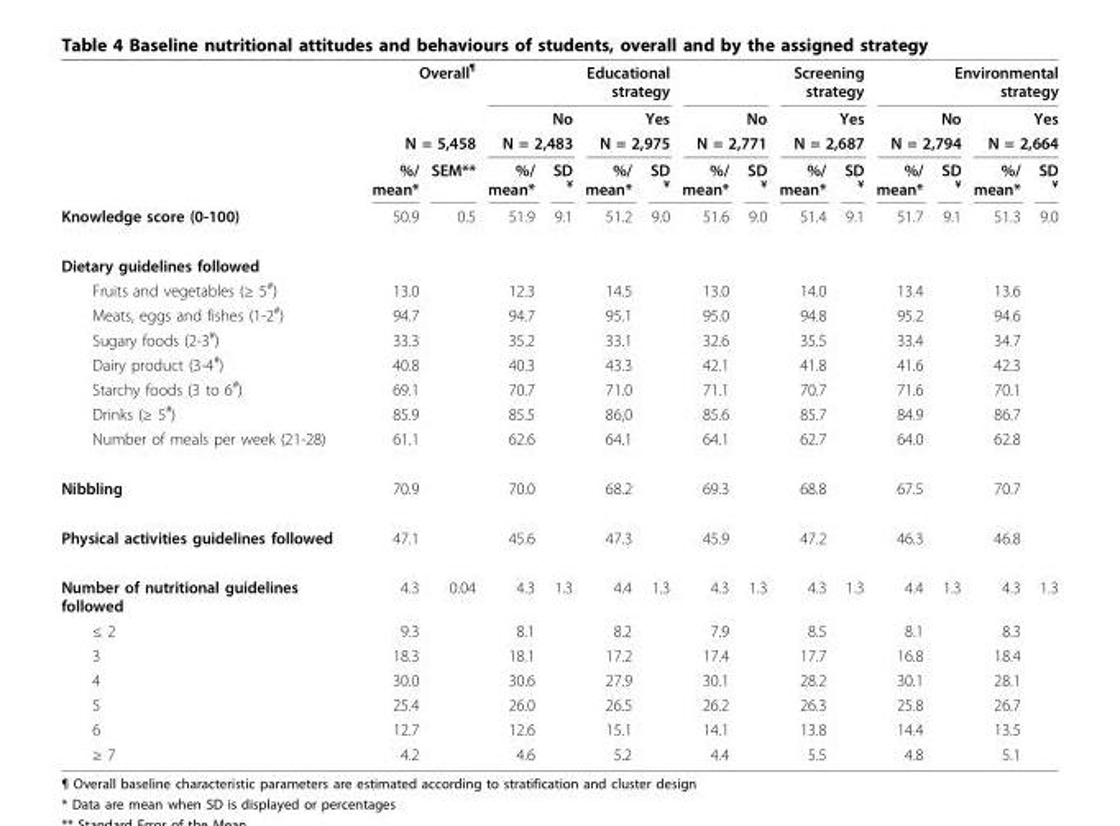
<table><thead><tr><td rowspan="4"></td><td colspan="2">Overall<sup>¶</sup></td><td colspan="4">Educational strategy</td><td colspan="4">Screening strategy</td><td colspan="4">Environmental strategy</td></tr><tr><td></td><td></td><td rowspan="2" colspan="2">No N = 2,483</td><td rowspan="2" colspan="2">Yes N = 2,975</td><td rowspan="2" colspan="2">No N = 2,771</td><td rowspan="2" colspan="2">Yes N = 2,687</td><td rowspan="2" colspan="2">No N = 2,794</td><td rowspan="2" colspan="2">Yes N = 2,664</td></tr><tr><td colspan="2">N = 5,458</td></tr><tr><td>%/ mean*</td><td>SEM**</td><td>%/ mean*</td><td>SD <sup>¥</sup></td><td>%/ mean*</td><td>SD <sup>¥</sup></td><td>%/ mean*</td><td>SD <sup>¥</sup></td><td>%/ mean*</td><td>SD <sup>¥</sup></td><td>%/ mean*</td><td>SD <sup>¥</sup></td><td>%/ mean*</td><td>SD <sup>¥</sup></td></tr></thead><tbody><tr><td>Knowledge score (0-100)</td><td>50.9</td><td>0.5</td><td>51.9</td><td>9.1</td><td>51.2</td><td>9.0</td><td>51.6</td><td>9.0</td><td>51.4</td><td>9.1</td><td>51.7</td><td>9.1</td><td>51.3</td><td>9.0</td></tr><tr><td colspan="15">Dietary guidelines followed</td></tr><tr><td>Fruits and vegetables (≥ 5<sup>#</sup>)</td><td>13.0</td><td></td><td>12.3</td><td></td><td>14.5</td><td></td><td>13.0</td><td></td><td>14.0</td><td></td><td>13.4</td><td></td><td>13.6</td><td></td></tr><tr><td>Meats, eggs and fishes (1-2<sup>#</sup>)</td><td>94.7</td><td></td><td>94.7</td><td></td><td>95.1</td><td></td><td>95.0</td><td></td><td>94.8</td><td></td><td>95.2</td><td></td><td>94.6</td><td></td></tr><tr><td>Sugary foods (2-3<sup>#</sup>)</td><td>33.3</td><td></td><td>35.2</td><td></td><td>33.1</td><td></td><td>32.6</td><td></td><td>35.5</td><td></td><td>33.4</td><td></td><td>34.7</td><td></td></tr><tr><td>Dairy product (3-4<sup>#</sup>)</td><td>40.8</td><td></td><td>40.3</td><td></td><td>43.3</td><td></td><td>42.1</td><td></td><td>41.8</td><td></td><td>41.6</td><td></td><td>42.3</td><td></td></tr><tr><td>Starchy foods (3 to 6<sup>#</sup>)</td><td>69.1</td><td></td><td>70.7</td><td></td><td>71.0</td><td></td><td>71.1</td><td></td><td>70.7</td><td></td><td>71.6</td><td></td><td>70.1</td><td></td></tr><tr><td>Drinks (≥ 5<sup>#</sup>)</td><td>85.9</td><td></td><td>85.5</td><td></td><td>86,0</td><td></td><td>85.6</td><td></td><td>85.7</td><td></td><td>84.9</td><td></td><td>86.7</td><td></td></tr><tr><td>Number of meals per week (21-28)</td><td>61.1</td><td></td><td>62.6</td><td></td><td>64.1</td><td></td><td>64.1</td><td></td><td>62.7</td><td></td><td>64.0</td><td></td><td>62.8</td><td></td></tr><tr><td>Nibbling</td><td>70.9</td><td></td><td>70.0</td><td></td><td>68.2</td><td></td><td>69.3</td><td></td><td>68.8</td><td></td><td>67.5</td><td></td><td>70.7</td><td></td></tr><tr><td>Physical activities guidelines followed</td><td>47.1</td><td></td><td>45.6</td><td></td><td>47.3</td><td></td><td>45.9</td><td></td><td>47.2</td><td></td><td>46.3</td><td></td><td>46.8</td><td></td></tr><tr><td>Number of nutritional guidelines followed</td><td>4.3</td><td>0.04</td><td>4.3</td><td>1.3</td><td>4.4</td><td>1.3</td><td>4.3</td><td>1.3</td><td>4.3</td><td>1.3</td><td>4.4</td><td>1.3</td><td>4.3</td><td>1.3</td></tr><tr><td>≤ 2</td><td>9.3</td><td></td><td>8.1</td><td></td><td>8.2</td><td></td><td>7.9</td><td></td><td>8.5</td><td></td><td>8.1</td><td></td><td>8.3</td><td></td></tr><tr><td>3</td><td>18.3</td><td></td><td>18.1</td><td></td><td>17.2</td><td></td><td>17.4</td><td></td><td>17.7</td><td></td><td>16.8</td><td></td><td>18.4</td><td></td></tr><tr><td>4</td><td>30.0</td><td></td><td>30.6</td><td></td><td>27.9</td><td></td><td>30.1</td><td></td><td>28.2</td><td></td><td>30.1</td><td></td><td>28.1</td><td></td></tr><tr><td>5</td><td>25.4</td><td></td><td>26.0</td><td></td><td>26.5</td><td></td><td>26.2</td><td></td><td>26.3</td><td></td><td>25.8</td><td></td><td>26.7</td><td></td></tr><tr><td>6</td><td>12.7</td><td></td><td>12.6</td><td></td><td>15.1</td><td></td><td>14.1</td><td></td><td>13.8</td><td></td><td>14.4</td><td></td><td>13.5</td><td></td></tr><tr><td>≥ 7</td><td>4.2</td><td></td><td>4.6</td><td></td><td>5.2</td><td></td><td>4.4</td><td></td><td>5.5</td><td></td><td>4.8</td><td></td><td>5.1</td><td></td></tr></tbody></table>